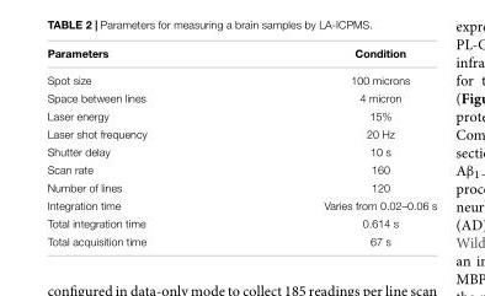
<table><thead><tr><td>Parameters</td><td>Condition</td></tr></thead><tbody><tr><td>Spot size</td><td>100 microns</td></tr><tr><td>Space between lines</td><td>4 micron</td></tr><tr><td>Laser energy</td><td>15%</td></tr><tr><td>Laser shot frequency</td><td>20 Hz</td></tr><tr><td>Shutter delay</td><td>10 s</td></tr><tr><td>Scan rate</td><td>160</td></tr><tr><td>Number of lines</td><td>120</td></tr><tr><td>Integration time</td><td>Varies from 0.02–0.06 s</td></tr><tr><td>Total integration time</td><td>0.614 s</td></tr><tr><td>Total acquisition time</td><td>67 s</td></tr></tbody></table>